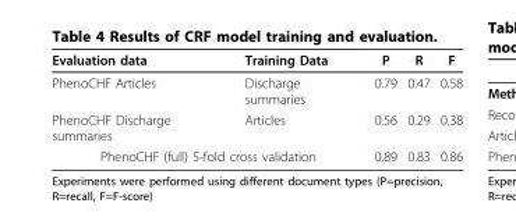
<table><thead><tr><td>Evaluation data</td><td>Training Data</td><td>P</td><td>R</td><td>F</td></tr></thead><tbody><tr><td>PhenoCHF Articles</td><td>Discharge summaries</td><td>0.79</td><td>0.47</td><td>0.58</td></tr><tr><td>PhenoCHF Discharge summaries</td><td>Articles</td><td>0.56</td><td>0.29</td><td>0.38</td></tr><tr><td colspan="2">PhenoCHF (full) 5-fold cross validation</td><td>0.89</td><td>0.83</td><td>0.86</td></tr></tbody></table>